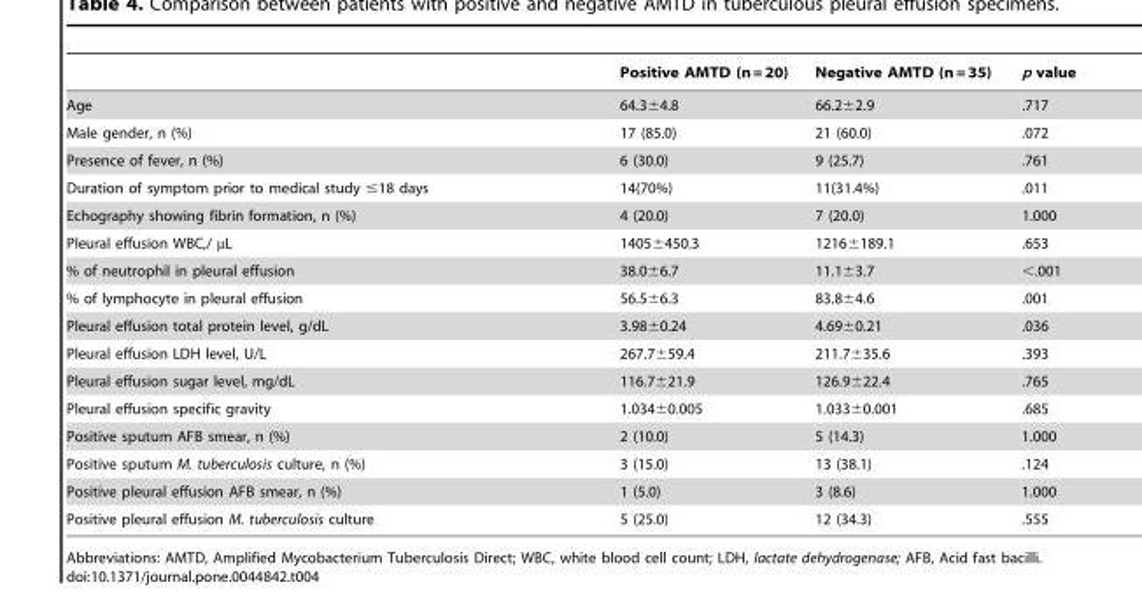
<table><thead><tr><td></td><td>Positive AMTD (n = 20)</td><td>Negative AMTD (n = 35)</td><td>p value</td></tr></thead><tbody><tr><td>Age</td><td>64.3±4.8</td><td>66.2±2.9</td><td>.717</td></tr><tr><td>Male gender, n (%)</td><td>17 (85.0)</td><td>21 (60.0)</td><td>.072</td></tr><tr><td>Presence of fever, n (%)</td><td>6 (30.0)</td><td>9 (25.7)</td><td>.761</td></tr><tr><td>Duration of symptom prior to medical study ≤18 days</td><td>14(70%)</td><td>11(31.4%)</td><td>.011</td></tr><tr><td>Echography showing fibrin formation, n (%)</td><td>4 (20.0)</td><td>7 (20.0)</td><td>1.000</td></tr><tr><td>Pleural effusion WBC,/ µL</td><td>1405±450.3</td><td>1216±189.1</td><td>.653</td></tr><tr><td>% of neutrophil in pleural effusion</td><td>38.0±6.7</td><td>11.1±3.7</td><td>&lt;.001</td></tr><tr><td>% of lymphocyte in pleural effusion</td><td>56.5±6.3</td><td>83.8±4.6</td><td>.001</td></tr><tr><td>Pleural effusion total protein level, g/dL</td><td>3.98±0.24</td><td>4.69±0.21</td><td>.036</td></tr><tr><td>Pleural effusion LDH level, U/L</td><td>267.7±59.4</td><td>211.7±35.6</td><td>.393</td></tr><tr><td>Pleural effusion sugar level, mg/dL</td><td>116.7±21.9</td><td>126.9±22.4</td><td>.765</td></tr><tr><td>Pleural effusion specific gravity</td><td>1.034±0.005</td><td>1.033±0.001</td><td>.685</td></tr><tr><td>Positive sputum AFB smear, n (%)</td><td>2 (10.0)</td><td>5 (14.3)</td><td>1.000</td></tr><tr><td>Positive sputum M. tuberculosis culture, n (%)</td><td>3 (15.0)</td><td>13 (38.1)</td><td>.124</td></tr><tr><td>Positive pleural effusion AFB smear, n (%)</td><td>1 (5.0)</td><td>3 (8.6)</td><td>1.000</td></tr><tr><td>Positive pleural effusion M. tuberculosis culture</td><td>5 (25.0)</td><td>12 (34.3)</td><td>.555</td></tr></tbody></table>